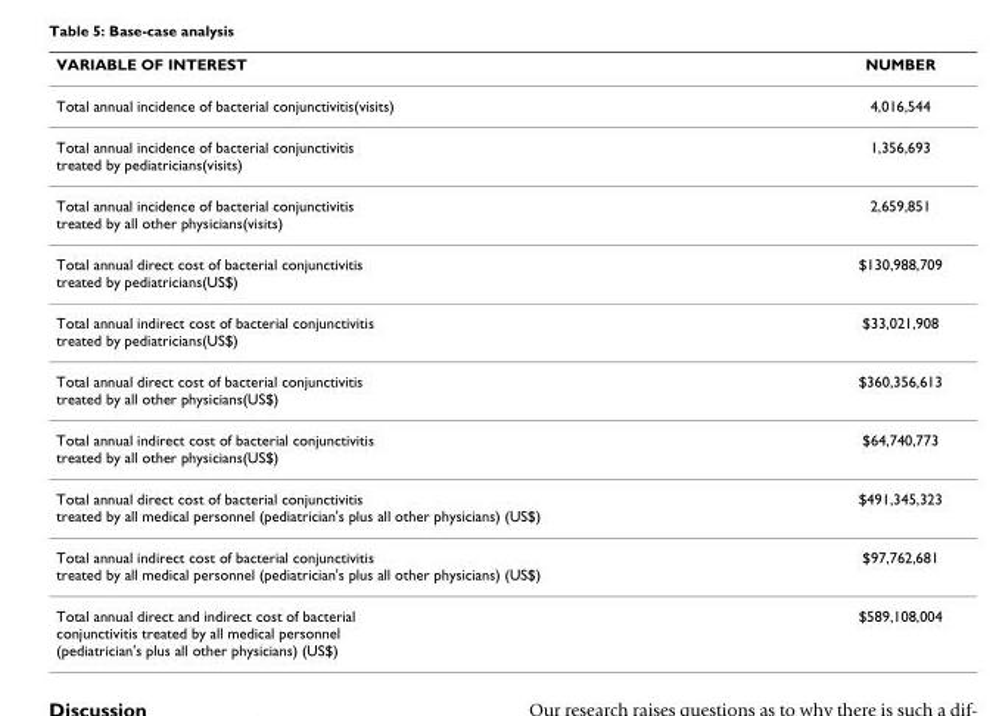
<table><thead><tr><td>VARIABLE OF INTEREST</td><td>NUMBER</td></tr></thead><tbody><tr><td>Total annual incidence of bacterial conjunctivitis(visits)</td><td>4,016,544</td></tr><tr><td>Total annual incidence of bacterial conjunctivitis treated by pediatricians(visits)</td><td>1,356,693</td></tr><tr><td>Total annual incidence of bacterial conjunctivitis treated by all other physicians(visits)</td><td>2,659,851</td></tr><tr><td>Total annual direct cost of bacterial conjunctivitis treated by pediatricians(US$)</td><td>$130,988,709</td></tr><tr><td>Total annual indirect cost of bacterial conjunctivitis treated by pediatricians(US$)</td><td>$33,021,908</td></tr><tr><td>Total annual direct cost of bacterial conjunctivitis treated by all other physicians(US$)</td><td>$360,356,613</td></tr><tr><td>Total annual indirect cost of bacterial conjunctivitis treated by all other physicians(US$)</td><td>$64,740,773</td></tr><tr><td>Total annual direct cost of bacterial conjunctivitis treated by all medical personnel (pediatrician&#x27;s plus all other physicians) (US$)</td><td>$491,345,323</td></tr><tr><td>Total annual indirect cost of bacterial conjunctivitis treated by all medical personnel (pediatrician&#x27;s plus all other physicians) (US$)</td><td>$97,762,681</td></tr><tr><td>Total annual direct and indirect cost of bacterial conjunctivitis treated by all medical personnel (pediatrician&#x27;s plus all other physicians) (US$)</td><td>$589,108,004</td></tr></tbody></table>